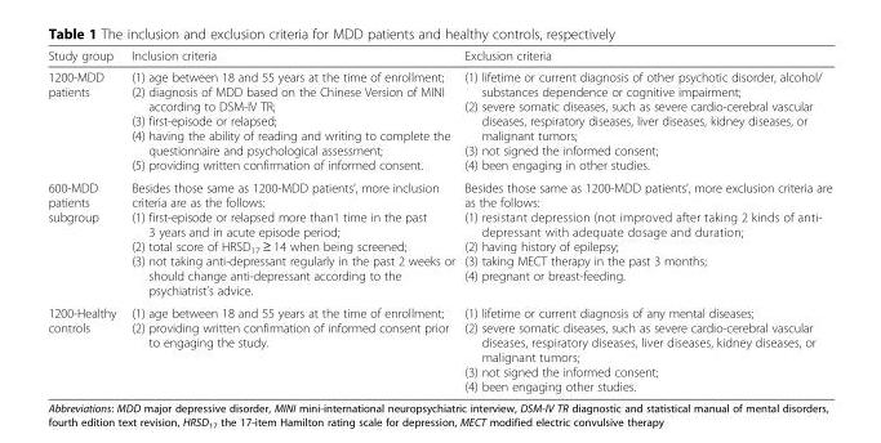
<table><thead><tr><td>Study group</td><td>Inclusion criteria</td><td>Exclusion criteria</td></tr></thead><tbody><tr><td>1200-MDD patients</td><td>(1) age between 18 and 55 years at the time of enrollment; (2) diagnosis of MDD based on the Chinese Version of MINI according to DSM-IV TR; (3) first-episode or relapsed; (4) having the ability of reading and writing to complete the questionnaire and psychological assessment; (5) providing written confirmation of informed consent.</td><td>(1) lifetime or current diagnosis of other psychotic disorder, alcohol/ substances dependence or cognitive impairment; (2) severe somatic diseases, such as severe cardio-cerebral vascular diseases, respiratory diseases, liver diseases, kidney diseases, or malignant tumors; (3) not signed the informed consent; (4) been engaging in other studies.</td></tr><tr><td>600-MDD patients subgroup</td><td>Besides those same as 1200-MDD patients’, more inclusion criteria are as the follows: (1) first-episode or relapsed more than1 time in the past 3 years and in acute episode period; (2) total score of HRSD<sub>17</sub> ≥ 14 when being screened; (3) not taking anti-depressant regularly in the past 2 weeks or should change anti-depressant according to the psychiatrist’s advice.</td><td>Besides those same as 1200-MDD patients’, more exclusion criteria are as the follows: (1) resistant depression (not improved after taking 2 kinds of anti- depressant with adequate dosage and duration; (2) having history of epilepsy; (3) taking MECT therapy in the past 3 months; (4) pregnant or breast-feeding.</td></tr><tr><td>1200-Healthy controls</td><td>(1) age between 18 and 55 years at the time of enrollment; (2) providing written confirmation of informed consent prior to engaging the study.</td><td>(1) lifetime or current diagnosis of any mental diseases; (2) severe somatic diseases, such as severe cardio-cerebral vascular diseases, respiratory diseases, liver diseases, kidney diseases, or malignant tumors; (3) not signed the informed consent; (4) been engaging other studies.</td></tr></tbody></table>